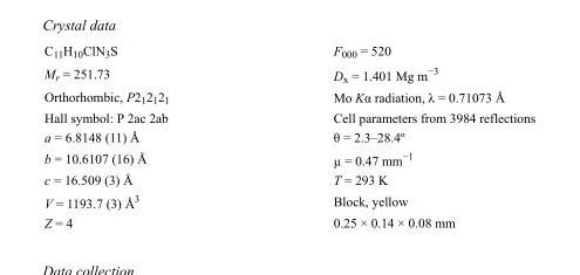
<table><tbody><tr><td>C<sub>11</sub>H<sub>10</sub>ClN<sub>3</sub>S</td><td>F000 = 520</td></tr><tr><td>M<sub>r</sub> = 251.73</td><td>D<sub>x</sub> = 1.401 Mg m<sup>−3</sup></td></tr><tr><td>Orthorhombic, P2<sub>1</sub>2<sub>1</sub>2<sub>1</sub></td><td>Mo Kα radiation, λ = 0.71073 Å</td></tr><tr><td>Hall symbol: P 2ac 2ab</td><td>Cell parameters from 3984 reflections</td></tr><tr><td>a = 6.8148 (11) Å</td><td>θ = 2.3–28.4º</td></tr><tr><td>b = 10.6107 (16) Å</td><td>µ = 0.47 mm<sup>−1</sup></td></tr><tr><td>c = 16.509 (3) Å</td><td>T = 293 K</td></tr><tr><td>V = 1193.7 (3) Å<sup>3</sup></td><td>Block, yellow</td></tr><tr><td>Z = 4</td><td>0.25 × 0.14 × 0.08 mm</td></tr></tbody></table>